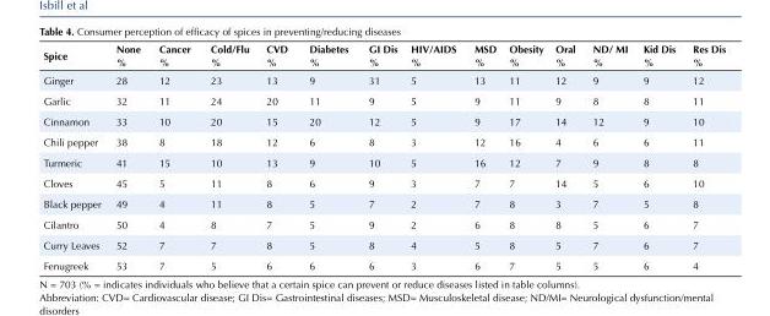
<table><tbody><tr><td>Spice</td><td>None %</td><td>Cancer %</td><td>Cold/Flu %</td><td>CVD %</td><td>Diabetes %</td><td>GI Dis %</td><td>HIV/AIDS %</td><td>MSD %</td><td>Obesity %</td><td>Oral %</td><td>ND/ MI %</td><td>Kid Dis %</td><td>Res Dis %</td></tr><tr><td>Ginger</td><td>28</td><td>12</td><td>23</td><td>13</td><td>9</td><td>31</td><td>5</td><td>13</td><td>11</td><td>12</td><td>9</td><td>9</td><td>12</td></tr><tr><td>Garlic</td><td>32</td><td>11</td><td>24</td><td>20</td><td>11</td><td>9</td><td>5</td><td>9</td><td>11</td><td>9</td><td>8</td><td>8</td><td>11</td></tr><tr><td>Cinnamon</td><td>33</td><td>10</td><td>20</td><td>15</td><td>20</td><td>12</td><td>5</td><td>9</td><td>17</td><td>14</td><td>12</td><td>9</td><td>10</td></tr><tr><td>Chili pepper</td><td>38</td><td>8</td><td>18</td><td>12</td><td>6</td><td>8</td><td>3</td><td>12</td><td>16</td><td>4</td><td>6</td><td>6</td><td>11</td></tr><tr><td>Turmeric</td><td>41</td><td>15</td><td>10</td><td>13</td><td>9</td><td>10</td><td>5</td><td>16</td><td>12</td><td>7</td><td>9</td><td>8</td><td>8</td></tr><tr><td>Cloves</td><td>45</td><td>5</td><td>11</td><td>8</td><td>6</td><td>9</td><td>3</td><td>7</td><td>7</td><td>14</td><td>5</td><td>6</td><td>10</td></tr><tr><td>Black pepper</td><td>49</td><td>4</td><td>11</td><td>8</td><td>5</td><td>7</td><td>2</td><td>7</td><td>8</td><td>3</td><td>7</td><td>5</td><td>8</td></tr><tr><td>Cilantro</td><td>50</td><td>4</td><td>8</td><td>7</td><td>5</td><td>9</td><td>2</td><td>6</td><td>8</td><td>8</td><td>5</td><td>6</td><td>7</td></tr><tr><td>Curry Leaves</td><td>52</td><td>7</td><td>7</td><td>8</td><td>5</td><td>8</td><td>4</td><td>5</td><td>8</td><td>5</td><td>7</td><td>6</td><td>7</td></tr><tr><td>Fenugreek</td><td>53</td><td>7</td><td>5</td><td>6</td><td>6</td><td>6</td><td>3</td><td>6</td><td>7</td><td>5</td><td>5</td><td>6</td><td>4</td></tr></tbody></table>